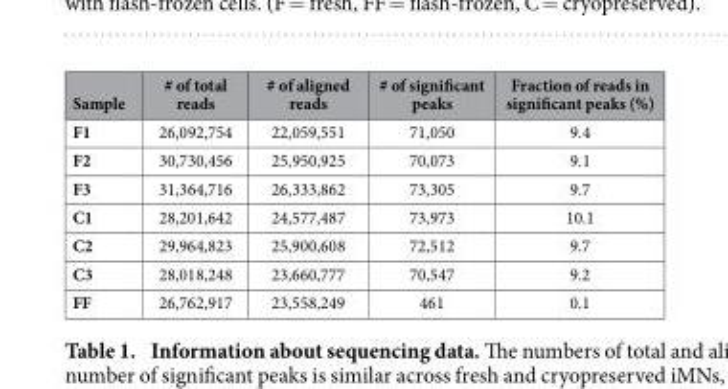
<table><thead><tr><td>Sample</td><td># of total reads</td><td># of aligned reads</td><td># of significant peaks</td><td>Fraction of reads in significant peaks (%)</td></tr></thead><tbody><tr><td>F1</td><td>26,092,754</td><td>22,059,551</td><td>71,050</td><td>9.4</td></tr><tr><td>F2</td><td>30,730,456</td><td>25,950,925</td><td>70,073</td><td>9.1</td></tr><tr><td>F3</td><td>31,364,716</td><td>26,333,862</td><td>73,305</td><td>9.7</td></tr><tr><td>C1</td><td>28,201,642</td><td>24,577,487</td><td>73,973</td><td>10.1</td></tr><tr><td>C2</td><td>29,964,823</td><td>25,900,608</td><td>72,512</td><td>9.7</td></tr><tr><td>C3</td><td>28,018,248</td><td>23,660,777</td><td>70,547</td><td>9.2</td></tr><tr><td>FF</td><td>26,762,917</td><td>23,558,249</td><td>461</td><td>0.1</td></tr></tbody></table>